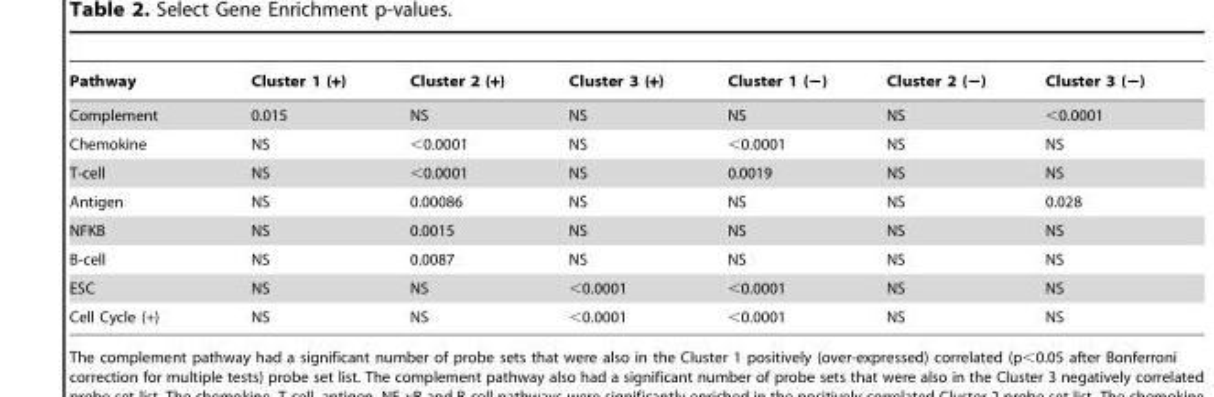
<table><thead><tr><td>Pathway</td><td>Cluster 1 (+)</td><td>Cluster 2 (+)</td><td>Cluster 3 (+)</td><td>Cluster 1 (−)</td><td>Cluster 2 (−)</td><td>Cluster 3 (−)</td></tr></thead><tbody><tr><td>Complement</td><td>0.015</td><td>NS</td><td>NS</td><td>NS</td><td>NS</td><td>&lt;0.0001</td></tr><tr><td>Chemokine</td><td>NS</td><td>&lt;0.0001</td><td>NS</td><td>&lt;0.0001</td><td>NS</td><td>NS</td></tr><tr><td>T-cell</td><td>NS</td><td>&lt;0.0001</td><td>NS</td><td>0.0019</td><td>NS</td><td>NS</td></tr><tr><td>Antigen</td><td>NS</td><td>0.00086</td><td>NS</td><td>NS</td><td>NS</td><td>0.028</td></tr><tr><td>NFKB</td><td>NS</td><td>0.0015</td><td>NS</td><td>NS</td><td>NS</td><td>NS</td></tr><tr><td>B-cell</td><td>NS</td><td>0.0087</td><td>NS</td><td>NS</td><td>NS</td><td>NS</td></tr><tr><td>ESC</td><td>NS</td><td>NS</td><td>&lt;0.0001</td><td>&lt;0.0001</td><td>NS</td><td>NS</td></tr><tr><td>Cell Cycle (+)</td><td>NS</td><td>NS</td><td>&lt;0.0001</td><td>&lt;0.0001</td><td>NS</td><td>NS</td></tr></tbody></table>